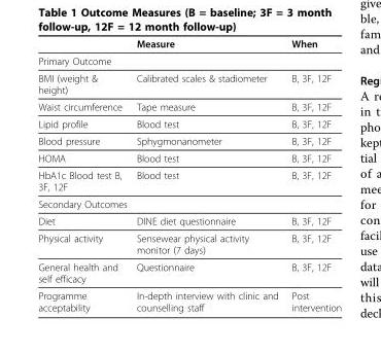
<table><thead><tr><td></td><td>Measure</td><td>When</td></tr></thead><tbody><tr><td colspan="3">Primary Outcome</td></tr><tr><td>BMI (weight &amp; height)</td><td>Calibrated scales &amp; stadiometer</td><td>B, 3F, 12F</td></tr><tr><td>Waist circumference</td><td>Tape measure</td><td>B, 3F, 12F</td></tr><tr><td>Lipid profile</td><td>Blood test</td><td>B, 3F, 12F</td></tr><tr><td>Blood pressure</td><td>Sphygmonanometer</td><td>B, 3F, 12F</td></tr><tr><td>HOMA</td><td>Blood test</td><td>B, 3F, 12F</td></tr><tr><td>HbA1c Blood test B, 3F, 12F</td><td>Blood test</td><td>B, 3F, 12F</td></tr><tr><td colspan="3">Secondary Outcomes</td></tr><tr><td>Diet</td><td>DINE diet questionnaire</td><td>B, 3F, 12F</td></tr><tr><td>Physical activity</td><td>Sensewear physical activity monitor (7 days)</td><td>B, 3F, 12F</td></tr><tr><td>General health and self efficacy</td><td>Questionnaire</td><td>B, 3F, 12F</td></tr><tr><td>Programme acceptability</td><td>In-depth interview with clinic and counselling staff</td><td>Post intervention</td></tr></tbody></table>